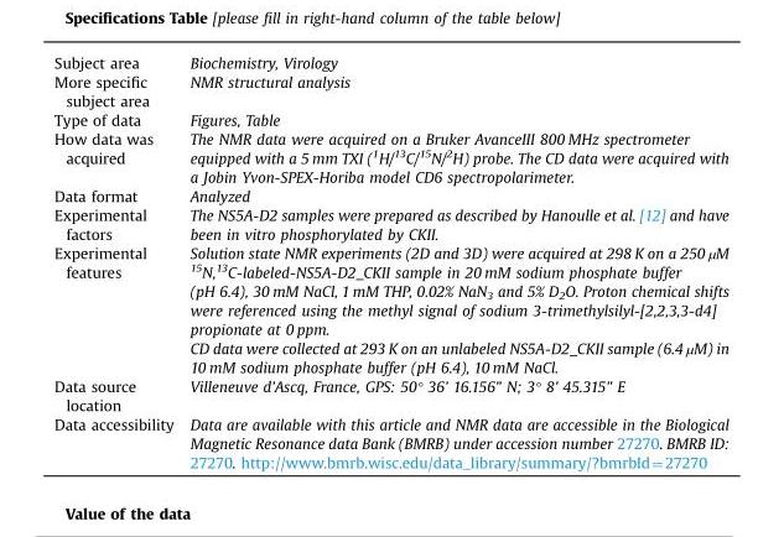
<table><tbody><tr><td>Subject area</td><td>Biochemistry, Virology</td></tr><tr><td>More specific subject area</td><td>NMR structural analysis</td></tr><tr><td>Type of data</td><td>Figures, Table</td></tr><tr><td>How data was acquired</td><td>The NMR data were acquired on a Bruker AvanceIII 800 MHz spectrometer equipped with a 5 mm TXI (<sup>1</sup>H/<sup>13</sup>C/<sup>15</sup>N/<sup>2</sup>H) probe. The CD data were acquired with a Jobin Yvon-SPEX-Horiba model CD6 spectropolarimeter.</td></tr><tr><td>Data format</td><td>Analyzed</td></tr><tr><td>Experimental factors</td><td>The NS5A-D2 samples were prepared as described by Hanoulle et al. [12] and have been in vitro phosphorylated by CKII.</td></tr><tr><td rowspan="2">Experimental features</td><td>Solution state NMR experiments (2D and 3D) were acquired at 298 K on a 250 µM <sup>15</sup>N,<sup>13</sup>C-labeled-NS5A-D2_CKII sample in 20 mM sodium phosphate buffer (pH 6.4), 30 mM NaCl, 1 mM THP, 0.02% NaN<sub>3</sub> and 5% D<sub>2</sub>O. Proton chemical shifts were referenced using the methyl signal of sodium 3-trimethylsilyl-[2,2,3,3-d4] propionate at 0 ppm.</td></tr><tr><td>CD data were collected at 293 K on an unlabeled NS5A-D2_CKII sample (6.4 µM) in 10 mM sodium phosphate buffer (pH 6.4), 10 mM NaCl.</td></tr><tr><td>Data source location</td><td>Villeneuve d’Ascq, France, GPS: 50° 36’ 16.156” N; 3° 8’ 45.315” E</td></tr><tr><td>Data accessibility</td><td>Data are available with this article and NMR data are accessible in the Biological Magnetic Resonance data Bank (BMRB) under accession number 27270. BMRB ID: 27270. http://www.bmrb.wisc.edu/data_library/summary/?bmrbId=27270</td></tr></tbody></table>